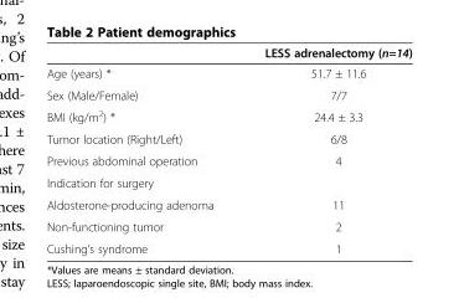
<table><thead><tr><td></td><td>LESS adrenalectomy (n=14)</td></tr></thead><tbody><tr><td>Age (years) *</td><td>51.7 ± 11.6</td></tr><tr><td>Sex (Male/Female)</td><td>7/7</td></tr><tr><td>BMI (kg/m<sup>2</sup>) *</td><td>24.4 ± 3.3</td></tr><tr><td>Tumor location (Right/Left)</td><td>6/8</td></tr><tr><td>Previous abdominal operation</td><td>4</td></tr><tr><td colspan="2">Indication for surgery</td></tr><tr><td>Aldosterone-producing adenoma</td><td>11</td></tr><tr><td>Non-functioning tumor</td><td>2</td></tr><tr><td>Cushing’s syndrome</td><td>1</td></tr></tbody></table>